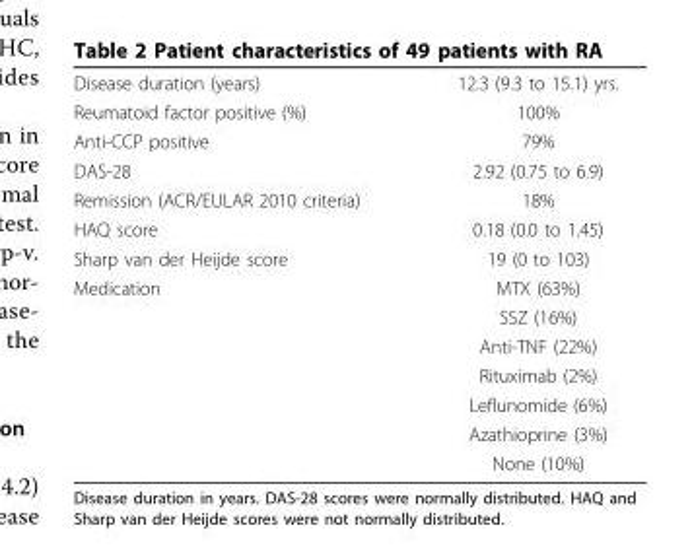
<table><tbody><tr><td>Disease duration (years)</td><td>12.3 (9.3 to 15.1) yrs.</td></tr><tr><td>Reumatoid factor positive (%)</td><td>100%</td></tr><tr><td>Anti-CCP positive</td><td>79%</td></tr><tr><td>DAS-28</td><td>2.92 (0.75 to 6.9)</td></tr><tr><td>Remission (ACR/EULAR 2010 criteria)</td><td>18%</td></tr><tr><td>HAQ score</td><td>0.18 (0.0 to 1.45)</td></tr><tr><td>Sharp van der Heijde score</td><td>19 (0 to 103)</td></tr><tr><td rowspan="7">Medication</td><td>MTX (63%)</td></tr><tr><td>SSZ (16%)</td></tr><tr><td>Anti-TNF (22%)</td></tr><tr><td>Rituximab (2%)</td></tr><tr><td>Leflunomide (6%)</td></tr><tr><td>Azathioprine (3%)</td></tr><tr><td>None (10%)</td></tr></tbody></table>